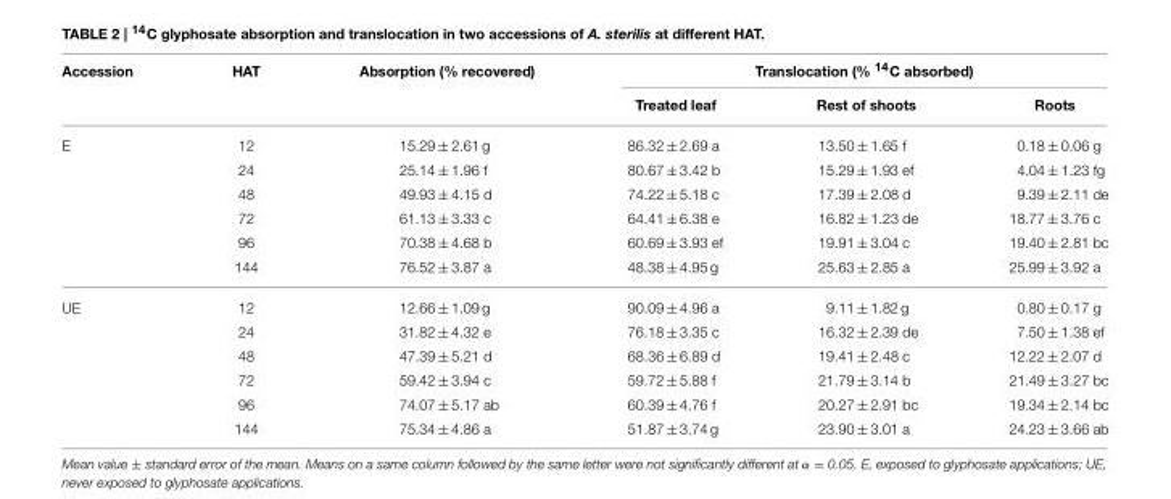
<table><thead><tr><td rowspan="2">Accession</td><td rowspan="2">HAT</td><td rowspan="2">Absorption (% recovered)</td><td colspan="3">Translocation (% <sup>14</sup>C absorbed)</td></tr><tr><td>Treated leaf</td><td>Rest of shoots</td><td>Roots</td></tr></thead><tbody><tr><td rowspan="6">E</td><td>12</td><td>15.29 ± 2.61 g</td><td>86.32 ± 2.69 a</td><td>13.50 ± 1.65 f</td><td>0.18 ± 0.06 g</td></tr><tr><td>24</td><td>25.14 ± 1.96 f</td><td>80.67 ± 3.42 b</td><td>15.29 ± 1.93 ef</td><td>4.04 ± 1.23 fg</td></tr><tr><td>48</td><td>49.93 ± 4.15 d</td><td>74.22 ± 5.18 c</td><td>17.39 ± 2.08 d</td><td>9.39 ± 2.11 de</td></tr><tr><td>72</td><td>61.13 ± 3.33 c</td><td>64.41 ± 6.38 e</td><td>16.82 ± 1.23 de</td><td>18.77 ± 3.76 c</td></tr><tr><td>96</td><td>70.38 ± 4.68 b</td><td>60.69 ± 3.93 ef</td><td>19.91 ± 3.04 c</td><td>19.40 ± 2.81 bc</td></tr><tr><td>144</td><td>76.52 ± 3.87 a</td><td>48.38 ± 4.95 g</td><td>25.63 ± 2.85 a</td><td>25.99 ± 3.92 a</td></tr><tr><td rowspan="6">UE</td><td>12</td><td>12.66 ± 1.09 g</td><td>90.09 ± 4.96 a</td><td>9.11 ± 1.82 g</td><td>0.80 ± 0.17 g</td></tr><tr><td>24</td><td>31.82 ± 4.32 e</td><td>76.18 ± 3.35 c</td><td>16.32 ± 2.39 de</td><td>7.50 ± 1.38 ef</td></tr><tr><td>48</td><td>47.39 ± 5.21 d</td><td>68.36 ± 6.89 d</td><td>19.41 ± 2.48 c</td><td>12.22 ± 2.07 d</td></tr><tr><td>72</td><td>59.42 ± 3.94 c</td><td>59.72 ± 5.88 f</td><td>21.79 ± 3.14 b</td><td>21.49 ± 3.27 bc</td></tr><tr><td>96</td><td>74.07 ± 5.17 ab</td><td>60.39 ± 4.76 f</td><td>20.27 ± 2.91 bc</td><td>19.34 ± 2.14 bc</td></tr><tr><td>144</td><td>75.34 ± 4.86 a</td><td>51.87 ± 3.74 g</td><td>23.90 ± 3.01 a</td><td>24.23 ± 3.66 ab</td></tr></tbody></table>